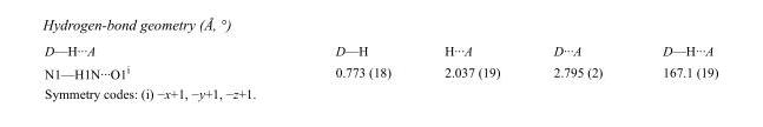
<table><tbody><tr><td>D—H···A</td><td>D—H</td><td>H···A</td><td>D···A</td><td>D—H···A</td></tr><tr><td>N1—H1N···O1<sup>i</sup></td><td>0.773 (18)</td><td>2.037 (19)</td><td>2.795 (2)</td><td>167.1 (19)</td></tr></tbody></table>